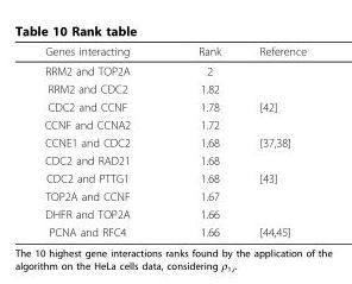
<table><thead><tr><td>Genes interacting</td><td>Rank</td><td>Reference</td></tr></thead><tbody><tr><td>RRM2 and TOP2A</td><td>2</td><td></td></tr><tr><td>RRM2 and CDC2</td><td>1.82</td><td></td></tr><tr><td>CDC2 and CCNF</td><td>1.78</td><td>[42]</td></tr><tr><td>CCNF and CCNA2</td><td>1.72</td><td></td></tr><tr><td>CCNE1 and CDC2</td><td>1.68</td><td>[37,38]</td></tr><tr><td>CDC2 and RAD21</td><td>1.68</td><td></td></tr><tr><td>CDC2 and PTTG1</td><td>1.68</td><td>[43]</td></tr><tr><td>TOP2A and CCNF</td><td>1.67</td><td></td></tr><tr><td>DHFR and TOP2A</td><td>1.66</td><td></td></tr><tr><td>PCNA and RFC4</td><td>1.66</td><td>[44,45]</td></tr></tbody></table>